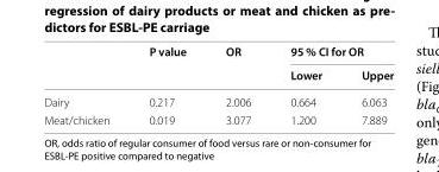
<table><thead><tr><td rowspan="2"></td><td rowspan="2">P value</td><td rowspan="2">OR</td><td colspan="2">95 % CI for OR</td></tr><tr><td>Lower</td><td>Upper</td></tr></thead><tbody><tr><td>Dairy</td><td>0.217</td><td>2.006</td><td>0.664</td><td>6.063</td></tr><tr><td>Meat/chicken</td><td>0.019</td><td>3.077</td><td>1.200</td><td>7.889</td></tr></tbody></table>